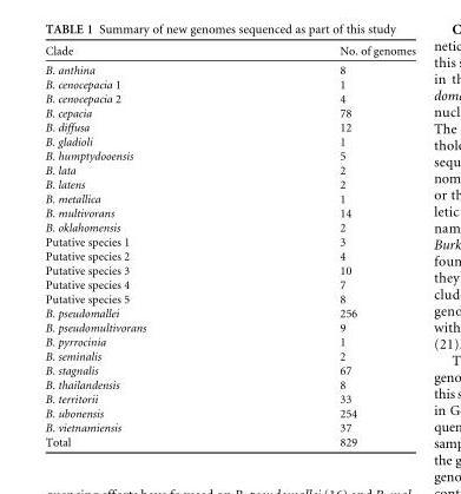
<table><thead><tr><td>Clade</td><td>No. of genomes</td></tr></thead><tbody><tr><td>B. anthina</td><td>8</td></tr><tr><td>B. cenocepacia 1</td><td>1</td></tr><tr><td>B. cenocepacia 2</td><td>4</td></tr><tr><td>B. cepacia</td><td>78</td></tr><tr><td>B. diffusa</td><td>12</td></tr><tr><td>B. gladioli</td><td>1</td></tr><tr><td>B. humptydooensis</td><td>5</td></tr><tr><td>B. lata</td><td>2</td></tr><tr><td>B. latens</td><td>2</td></tr><tr><td>B. metallica</td><td>1</td></tr><tr><td>B. multivorans</td><td>14</td></tr><tr><td>B. oklahomensis</td><td>2</td></tr><tr><td>Putative species 1</td><td>3</td></tr><tr><td>Putative species 2</td><td>4</td></tr><tr><td>Putative species 3</td><td>10</td></tr><tr><td>Putative species 4</td><td>7</td></tr><tr><td>Putative species 5</td><td>8</td></tr><tr><td>B. pseudomallei</td><td>256</td></tr><tr><td>B. pseudomultivorans</td><td>9</td></tr><tr><td>B. pyrrocinia</td><td>1</td></tr><tr><td>B. seminalis</td><td>2</td></tr><tr><td>B. stagnalis</td><td>67</td></tr><tr><td>B. thailandensis</td><td>8</td></tr><tr><td>B. territorii</td><td>33</td></tr><tr><td>B. ubonensis</td><td>254</td></tr><tr><td>B. vietnamiensis</td><td>37</td></tr><tr><td>Total</td><td>829</td></tr></tbody></table>